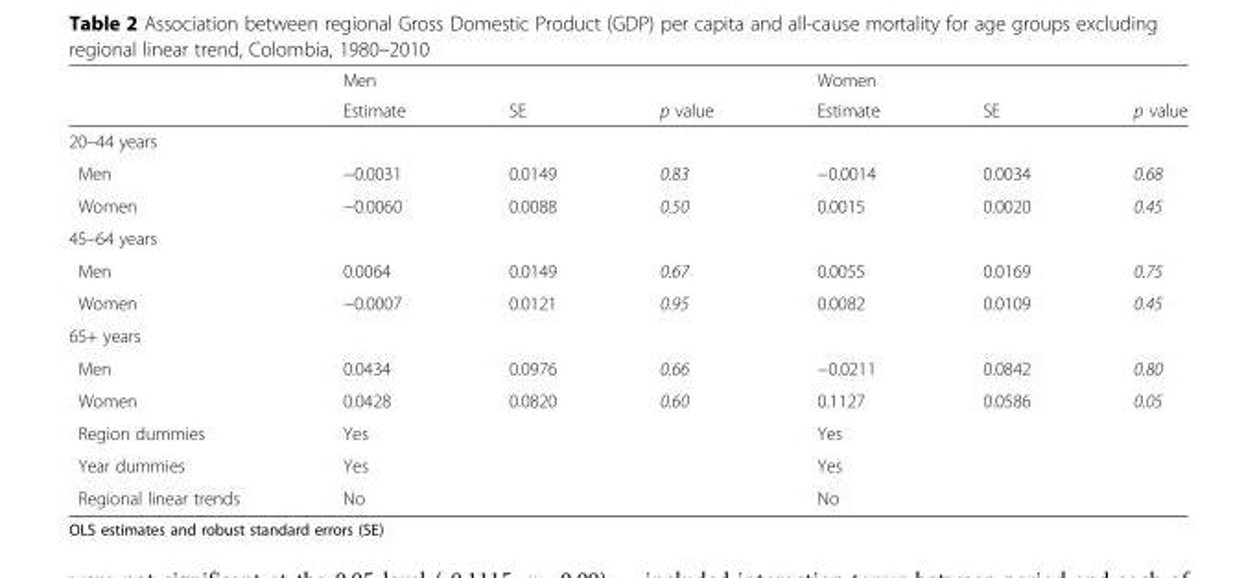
<table><thead><tr><td rowspan="2"></td><td colspan="3">Men</td><td colspan="3">Women</td></tr><tr><td>Estimate</td><td>SE</td><td>p value</td><td>Estimate</td><td>SE</td><td>p value</td></tr></thead><tbody><tr><td colspan="7">20–44 years</td></tr><tr><td>Men</td><td>−0.0031</td><td>0.0149</td><td>0.83</td><td>−0.0014</td><td>0.0034</td><td>0.68</td></tr><tr><td>Women</td><td>−0.0060</td><td>0.0088</td><td>0.50</td><td>0.0015</td><td>0.0020</td><td>0.45</td></tr><tr><td colspan="7">45–64 years</td></tr><tr><td>Men</td><td>0.0064</td><td>0.0149</td><td>0.67</td><td>0.0055</td><td>0.0169</td><td>0.75</td></tr><tr><td>Women</td><td>−0.0007</td><td>0.0121</td><td>0.95</td><td>0.0082</td><td>0.0109</td><td>0.45</td></tr><tr><td colspan="7">65+ years</td></tr><tr><td>Men</td><td>0.0434</td><td>0.0976</td><td>0.66</td><td>−0.0211</td><td>0.0842</td><td>0.80</td></tr><tr><td>Women</td><td>0.0428</td><td>0.0820</td><td>0.60</td><td>0.1127</td><td>0.0586</td><td>0.05</td></tr><tr><td>Region dummies</td><td colspan="3">Yes</td><td colspan="3">Yes</td></tr><tr><td>Year dummies</td><td colspan="3">Yes</td><td colspan="3">Yes</td></tr><tr><td>Regional linear trends</td><td colspan="3">No</td><td colspan="3">No</td></tr></tbody></table>